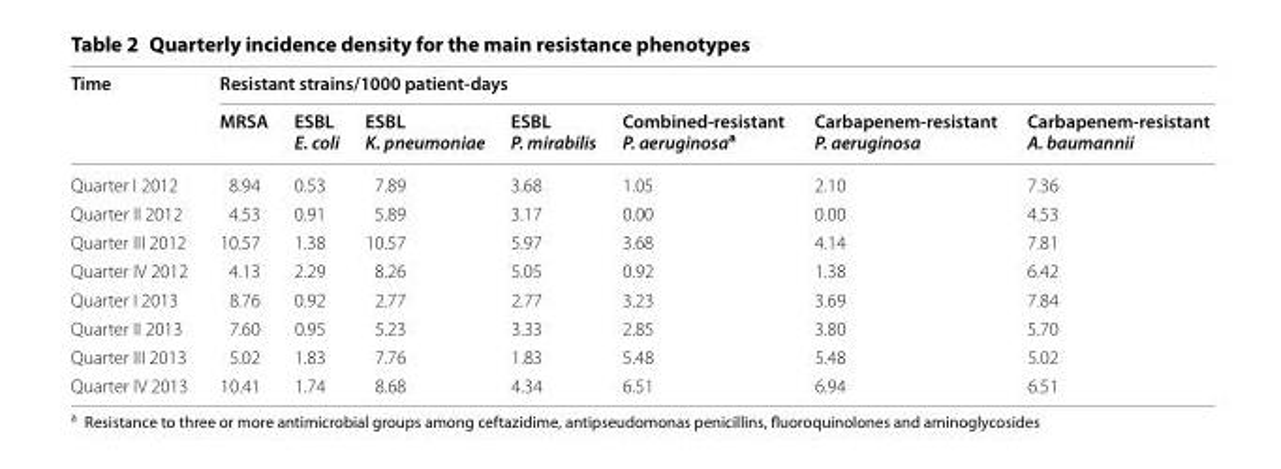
<table><thead><tr><td rowspan="2">Time</td><td colspan="7">Resistant strains/1000 patient-days</td></tr><tr><td>MRSA</td><td>ESBL E. coli</td><td>ESBL K. pneumoniae</td><td>ESBL P. mirabilis</td><td>Combined-resistant P. aeruginosa<sup>a</sup></td><td>Carbapenem-resistant P. aeruginosa</td><td>Carbapenem-resistant A. baumannii</td></tr></thead><tbody><tr><td>Quarter I 2012</td><td>8.94</td><td>0.53</td><td>7.89</td><td>3.68</td><td>1.05</td><td>2.10</td><td>7.36</td></tr><tr><td>Quarter II 2012</td><td>4.53</td><td>0.91</td><td>5.89</td><td>3.17</td><td>0.00</td><td>0.00</td><td>4.53</td></tr><tr><td>Quarter III 2012</td><td>10.57</td><td>1.38</td><td>10.57</td><td>5.97</td><td>3.68</td><td>4.14</td><td>7.81</td></tr><tr><td>Quarter IV 2012</td><td>4.13</td><td>2.29</td><td>8.26</td><td>5.05</td><td>0.92</td><td>1.38</td><td>6.42</td></tr><tr><td>Quarter I 2013</td><td>8.76</td><td>0.92</td><td>2.77</td><td>2.77</td><td>3.23</td><td>3.69</td><td>7.84</td></tr><tr><td>Quarter II 2013</td><td>7.60</td><td>0.95</td><td>5.23</td><td>3.33</td><td>2.85</td><td>3.80</td><td>5.70</td></tr><tr><td>Quarter III 2013</td><td>5.02</td><td>1.83</td><td>7.76</td><td>1.83</td><td>5.48</td><td>5.48</td><td>5.02</td></tr><tr><td>Quarter IV 2013</td><td>10.41</td><td>1.74</td><td>8.68</td><td>4.34</td><td>6.51</td><td>6.94</td><td>6.51</td></tr></tbody></table>